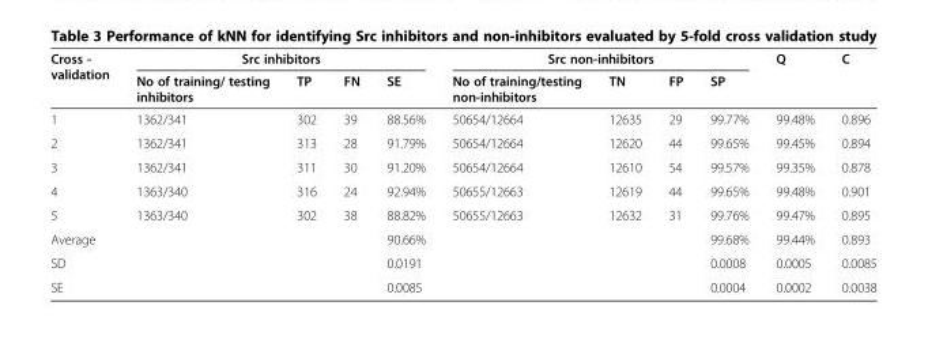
<table><thead><tr><td rowspan="2">Cross - validation</td><td colspan="4">Src inhibitors</td><td colspan="4">Src non-inhibitors</td><td rowspan="2">Q</td><td rowspan="2">C</td></tr><tr><td>No of training/ testing inhibitors</td><td>TP</td><td>FN</td><td>SE</td><td>No of training/testing non-inhibitors</td><td>TN</td><td>FP</td><td>SP</td></tr></thead><tbody><tr><td>1</td><td>1362/341</td><td>302</td><td>39</td><td>88.56%</td><td>50654/12664</td><td>12635</td><td>29</td><td>99.77%</td><td>99.48%</td><td>0.896</td></tr><tr><td>2</td><td>1362/341</td><td>313</td><td>28</td><td>91.79%</td><td>50654/12664</td><td>12620</td><td>44</td><td>99.65%</td><td>99.45%</td><td>0.894</td></tr><tr><td>3</td><td>1362/341</td><td>311</td><td>30</td><td>91.20%</td><td>50654/12664</td><td>12610</td><td>54</td><td>99.57%</td><td>99.35%</td><td>0.878</td></tr><tr><td>4</td><td>1363/340</td><td>316</td><td>24</td><td>92.94%</td><td>50655/12663</td><td>12619</td><td>44</td><td>99.65%</td><td>99.48%</td><td>0.901</td></tr><tr><td>5</td><td>1363/340</td><td>302</td><td>38</td><td>88.82%</td><td>50655/12663</td><td>12632</td><td>31</td><td>99.76%</td><td>99.47%</td><td>0.895</td></tr><tr><td>Average</td><td></td><td></td><td></td><td>90.66%</td><td></td><td></td><td></td><td>99.68%</td><td>99.44%</td><td>0.893</td></tr><tr><td>SD</td><td></td><td></td><td></td><td>0.0191</td><td></td><td></td><td></td><td>0.0008</td><td>0.0005</td><td>0.0085</td></tr><tr><td>SE</td><td></td><td></td><td></td><td>0.0085</td><td></td><td></td><td></td><td>0.0004</td><td>0.0002</td><td>0.0038</td></tr></tbody></table>